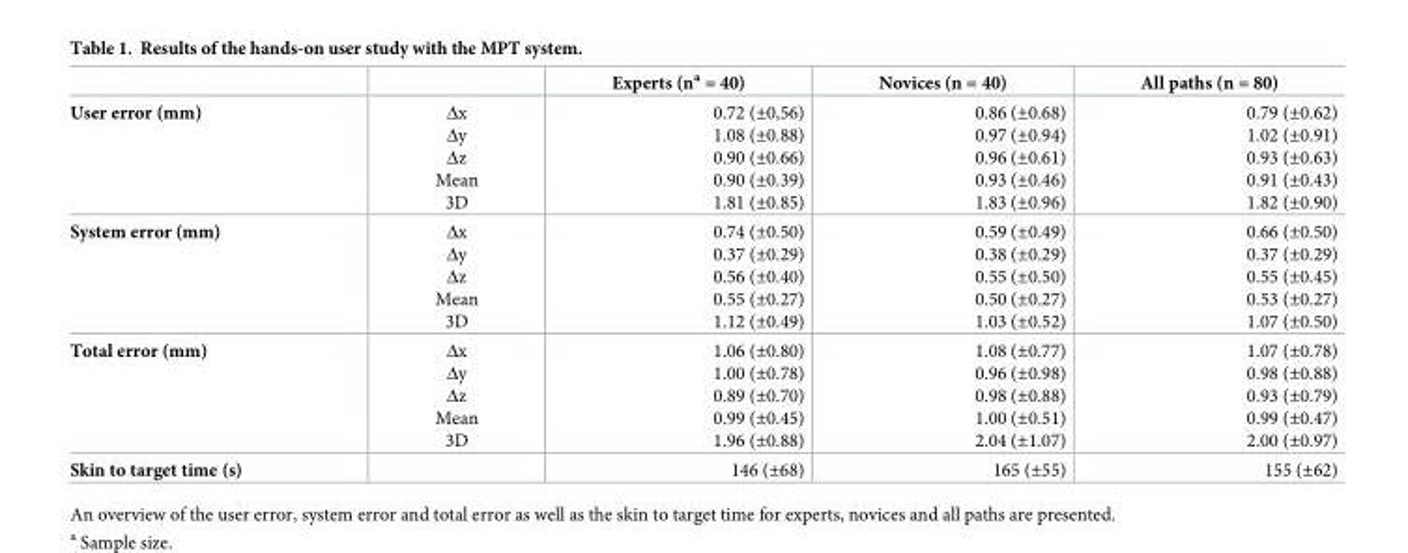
<table><thead><tr><td></td><td></td><td>Experts (n<sup>a</sup> = 40)</td><td>Novices (n = 40)</td><td>All paths (n = 80)</td></tr></thead><tbody><tr><td>User error (mm)</td><td>Δx Δy Δz Mean 3D</td><td>0.72 (±0,56) 1.08 (±0.88) 0.90 (±0.66) 0.90 (±0.39) 1.81 (±0.85)</td><td>0.86 (±0.68) 0.97 (±0.94) 0.96 (±0.61) 0.93 (±0.46) 1.83 (±0.96)</td><td>0.79 (±0.62) 1.02 (±0.91) 0.93 (±0.63) 0.91 (±0.43) 1.82 (±0.90)</td></tr><tr><td>System error (mm)</td><td>Δx Δy Δz Mean 3D</td><td>0.74 (±0.50) 0.37 (±0.29) 0.56 (±0.40) 0.55 (±0.27) 1.12 (±0.49)</td><td>0.59 (±0.49) 0.38 (±0.29) 0.55 (±0.50) 0.50 (±0.27) 1.03 (±0.52)</td><td>0.66 (±0.50) 0.37 (±0.29) 0.55 (±0.45) 0.53 (±0.27) 1.07 (±0.50)</td></tr><tr><td>Total error (mm)</td><td>Δx Δy Δz Mean 3D</td><td>1.06 (±0.80) 1.00 (±0.78) 0.89 (±0.70) 0.99 (±0.45) 1.96 (±0.88)</td><td>1.08 (±0.77) 0.96 (±0.98) 0.98 (±0.88) 1.00 (±0.51) 2.04 (±1.07)</td><td>1.07 (±0.78) 0.98 (±0.88) 0.93 (±0.79) 0.99 (±0.47) 2.00 (±0.97)</td></tr><tr><td>Skin to target time (s)</td><td></td><td>146 (±68)</td><td>165 (±55)</td><td>155 (±62)</td></tr></tbody></table>